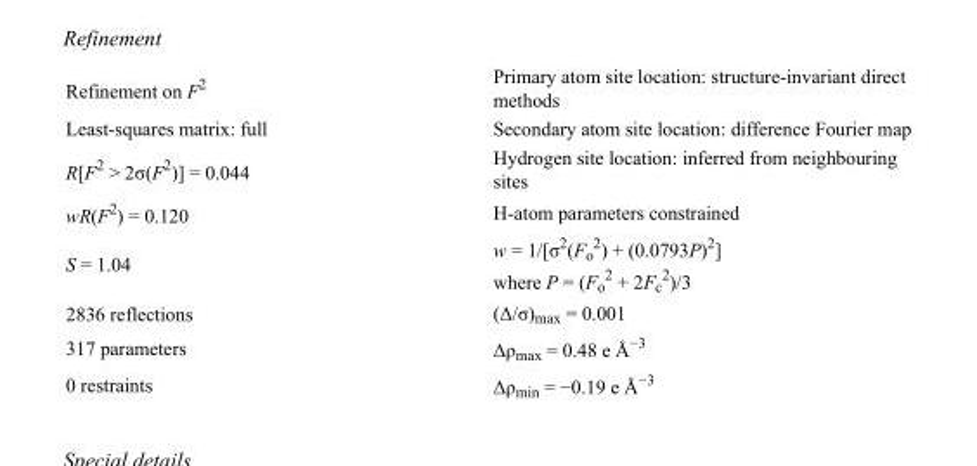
<table><tbody><tr><td>Refinement on F<sup>2</sup></td><td>Primary atom site location: structure-invariant direct methods</td></tr><tr><td>Least-squares matrix: full</td><td>Secondary atom site location: difference Fourier map</td></tr><tr><td>R[F<sup>2</sup> &gt; 2σ(F<sup>2</sup>)] = 0.044</td><td>Hydrogen site location: inferred from neighbouring sites</td></tr><tr><td>wR(F<sup>2</sup>) = 0.120</td><td>H-atom parameters constrained</td></tr><tr><td>S = 1.04</td><td>w = 1/[σ<sup>2</sup>(F<sub>o</sub> <sup>2</sup>) + (0.0793P)<sup>2</sup>] where P = (F<sub>o</sub> <sup>2</sup> + 2F<sub>c</sub> <sup>2</sup>)/3</td></tr><tr><td>2836 reflections</td><td>(Δ/σ)<sub>max</sub> = 0.001</td></tr><tr><td>317 parameters</td><td>Δρ<sub>max</sub> = 0.48 e Å<sup>−3</sup></td></tr><tr><td>0 restraints</td><td>Δρ<sub>min</sub> = −0.19 e Å<sup>−3</sup></td></tr></tbody></table>